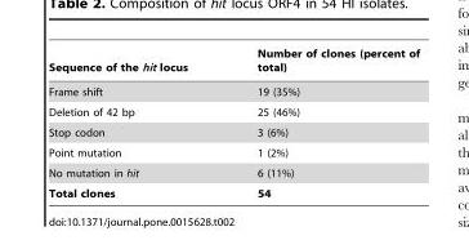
<table><thead><tr><td>Sequence of the hit locus</td><td>Number of clones (percent of total)</td></tr></thead><tbody><tr><td>Frame shift</td><td>19 (35%)</td></tr><tr><td>Deletion of 42 bp</td><td>25 (46%)</td></tr><tr><td>Stop codon</td><td>3 (6%)</td></tr><tr><td>Point mutation</td><td>1 (2%)</td></tr><tr><td>No mutation in hit</td><td>6 (11%)</td></tr><tr><td>Total clones</td><td>54</td></tr></tbody></table>